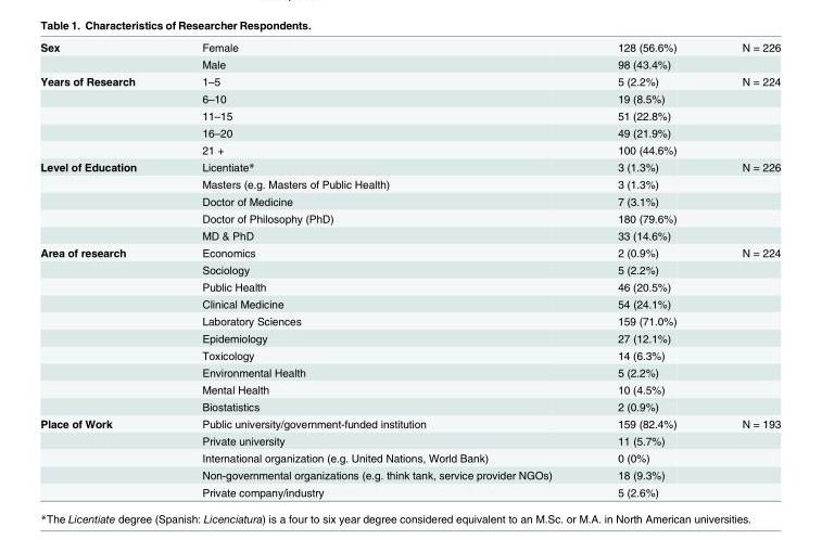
<table><tbody><tr><td rowspan="2">Sex</td><td>Female</td><td>128 (56.6%)</td><td>N = 226</td></tr><tr><td>Male</td><td>98 (43.4%)</td><td></td></tr><tr><td rowspan="5">Years of Research</td><td>1–5</td><td>5 (2.2%)</td><td>N = 224</td></tr><tr><td>6–10</td><td>19 (8.5%)</td><td></td></tr><tr><td>11–15</td><td>51 (22.8%)</td><td></td></tr><tr><td>16–20</td><td>49 (21.9%)</td><td></td></tr><tr><td>21 +</td><td>100 (44.6%)</td><td></td></tr><tr><td rowspan="5">Level of Education</td><td>Licentiate*</td><td>3 (1.3%)</td><td>N = 226</td></tr><tr><td>Masters (e.g. Masters of Public Health)</td><td>3 (1.3%)</td><td></td></tr><tr><td>Doctor of Medicine</td><td>7 (3.1%)</td><td></td></tr><tr><td>Doctor of Philosophy (PhD)</td><td>180 (79.6%)</td><td></td></tr><tr><td>MD &amp; PhD</td><td>33 (14.6%)</td><td></td></tr><tr><td rowspan="10">Area of research</td><td>Economics</td><td>2 (0.9%)</td><td>N = 224</td></tr><tr><td>Sociology</td><td>5 (2.2%)</td><td></td></tr><tr><td>Public Health</td><td>46 (20.5%)</td><td></td></tr><tr><td>Clinical Medicine</td><td>54 (24.1%)</td><td></td></tr><tr><td>Laboratory Sciences</td><td>159 (71.0%)</td><td></td></tr><tr><td>Epidemiology</td><td>27 (12.1%)</td><td></td></tr><tr><td>Toxicology</td><td>14 (6.3%)</td><td></td></tr><tr><td>Environmental Health</td><td>5 (2.2%)</td><td></td></tr><tr><td>Mental Health</td><td>10 (4.5%)</td><td></td></tr><tr><td>Biostatistics</td><td>2 (0.9%)</td><td></td></tr><tr><td rowspan="5">Place of Work</td><td>Public university/government-funded institution</td><td>159 (82.4%)</td><td>N = 193</td></tr><tr><td>Private university</td><td>11 (5.7%)</td><td></td></tr><tr><td>International organization (e.g. United Nations, World Bank)</td><td>0 (0%)</td><td></td></tr><tr><td>Non-governmental organizations (e.g. think tank, service provider NGOs)</td><td>18 (9.3%)</td><td></td></tr><tr><td>Private company/industry</td><td>5 (2.6%)</td><td></td></tr></tbody></table>